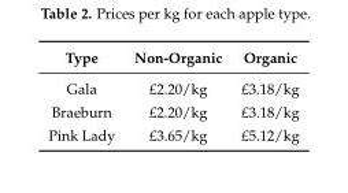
<table><thead><tr><td>Type</td><td>Non-Organic</td><td>Organic</td></tr></thead><tbody><tr><td>Gala</td><td>£2.20/kg</td><td>£3.18/kg</td></tr><tr><td>Braeburn</td><td>£2.20/kg</td><td>£3.18/kg</td></tr><tr><td>Pink Lady</td><td>£3.65/kg</td><td>£5.12/kg</td></tr></tbody></table>